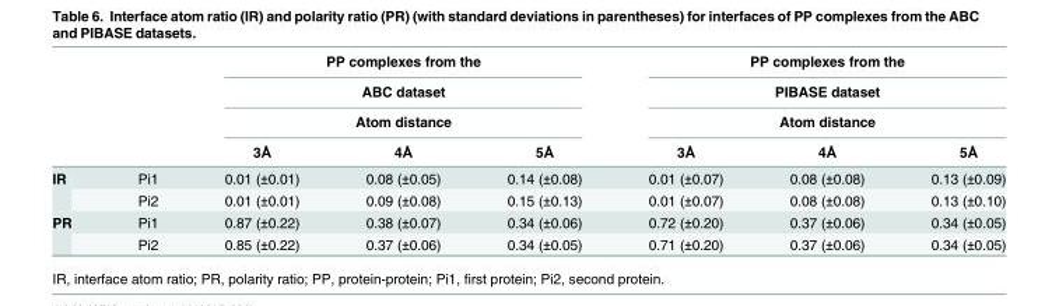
<table><thead><tr><td rowspan="4"></td><td rowspan="4"></td><td rowspan="3" colspan="3">PP complexes from the ABC dataset Atom distance</td><td rowspan="3" colspan="3">PP complexes from the PIBASE dataset Atom distance</td></tr><tr></tr><tr></tr><tr><td>3Å</td><td>4Å</td><td>5Å</td><td>3Å</td><td>4Å</td><td>5Å</td></tr></thead><tbody><tr><td rowspan="2">IR</td><td>Pi1</td><td>0.01 (±0.01)</td><td>0.08 (±0.05)</td><td>0.14 (±0.08)</td><td>0.01 (±0.07)</td><td>0.08 (±0.08)</td><td>0.13 (±0.09)</td></tr><tr><td>Pi2</td><td>0.01 (±0.01)</td><td>0.09 (±0.08)</td><td>0.15 (±0.13)</td><td>0.01 (±0.07)</td><td>0.08 (±0.08)</td><td>0.13 (±0.10)</td></tr><tr><td rowspan="2">PR</td><td>Pi1</td><td>0.87 (±0.22)</td><td>0.38 (±0.07)</td><td>0.34 (±0.06)</td><td>0.72 (±0.20)</td><td>0.37 (±0.06)</td><td>0.34 (±0.05)</td></tr><tr><td>Pi2</td><td>0.85 (±0.22)</td><td>0.37 (±0.06)</td><td>0.34 (±0.05)</td><td>0.71 (±0.20)</td><td>0.37 (±0.06)</td><td>0.34 (±0.05)</td></tr></tbody></table>